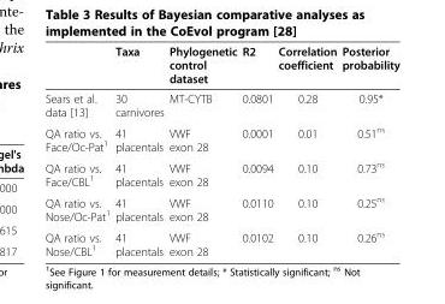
<table><thead><tr><td></td><td>Taxa</td><td>Phylogenetic control dataset</td><td>R2</td><td>Correlation coefficient</td><td>Posterior probability</td></tr></thead><tbody><tr><td>Sears et al. data [13]</td><td>30 carnivores</td><td>MT-CYTB</td><td>0.0801</td><td>0.28</td><td>0.95*</td></tr><tr><td>QA ratio vs. Face/Oc-Pat<sup>1</sup></td><td>41 placentals</td><td>VWF exon 28</td><td>0.0001</td><td>0.01</td><td>0.51<sup>ns</sup></td></tr><tr><td>QA ratio vs. Face/CBL<sup>1</sup></td><td>41 placentals</td><td>VWF exon 28</td><td>0.0094</td><td>0.10</td><td>0.73<sup>ns</sup></td></tr><tr><td>QA ratio vs. Nose/Oc-Pat<sup>1</sup></td><td>41 placentals</td><td>VWF exon 28</td><td>0.0110</td><td>0.10</td><td>0.25<sup>ns</sup></td></tr><tr><td>QA ratio vs. Nose/CBL<sup>1</sup></td><td>41 placentals</td><td>VWF exon 28</td><td>0.0102</td><td>0.10</td><td>0.26<sup>ns</sup></td></tr></tbody></table>